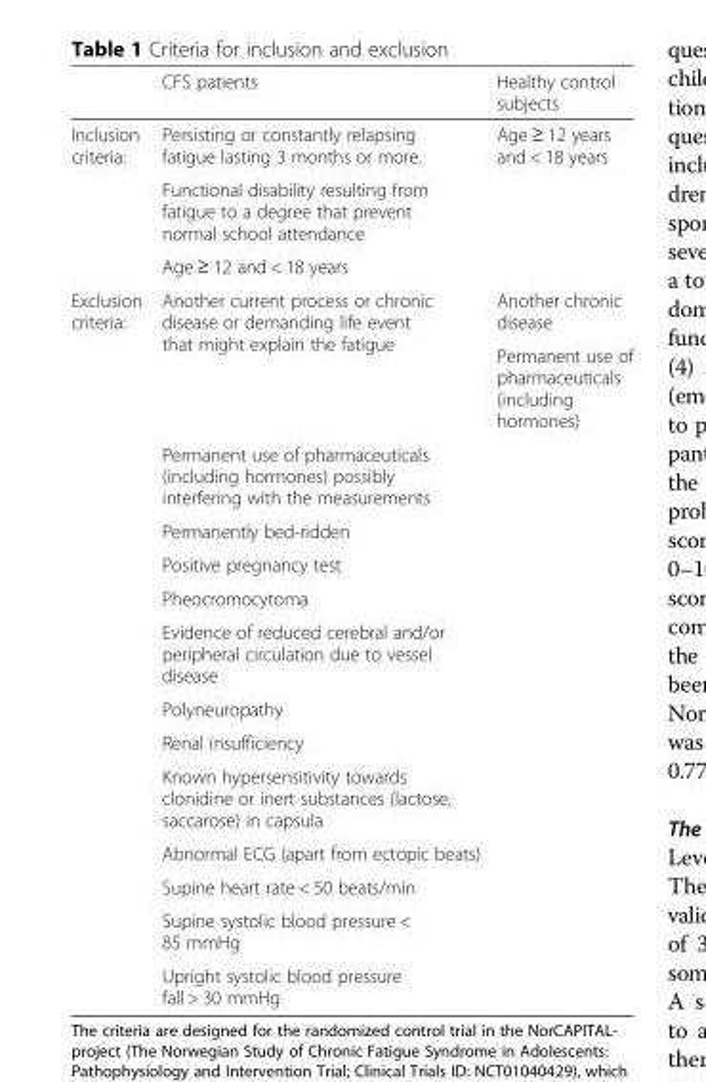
<table><thead><tr><td></td><td>CFS patients</td><td>Healthy control subjects</td></tr></thead><tbody><tr><td rowspan="3">Inclusion criteria:</td><td>Persisting or constantly relapsing fatigue lasting 3 months or more.</td><td>Age ≥ 12 years and &lt; 18 years</td></tr><tr><td>Functional disability resulting from fatigue to a degree that prevent normal school attendance</td><td></td></tr><tr><td>Age ≥ 12 and &lt; 18 years</td><td></td></tr><tr><td rowspan="14">Exclusion criteria:</td><td rowspan="2">Another current process or chronic disease or demanding life event that might explain the fatigue</td><td>Another chronic disease</td></tr><tr><td>Permanent use of pharmaceuticals (including hormones)</td></tr><tr><td>Permanent use of pharmaceuticals (including hormones) possibly interfering with the measurements</td><td></td></tr><tr><td>Permanently bed-ridden</td><td></td></tr><tr><td>Positive pregnancy test</td><td></td></tr><tr><td>Pheocromocytoma</td><td></td></tr><tr><td>Evidence of reduced cerebral and/or peripheral circulation due to vessel disease</td><td></td></tr><tr><td>Polyneuropathy</td><td></td></tr><tr><td>Renal insufficiency</td><td></td></tr><tr><td>Known hypersensitivity towards clonidine or inert substances (lactose, saccarose) in capsula</td><td></td></tr><tr><td>Abnormal ECG (apart from ectopic beats)</td><td></td></tr><tr><td>Supine heart rate &lt; 50 beats/min</td><td></td></tr><tr><td>Supine systolic blood pressure &lt; 85 mmHg</td><td></td></tr><tr><td>Upright systolic blood pressure fall &gt; 30 mmHg</td><td></td></tr></tbody></table>